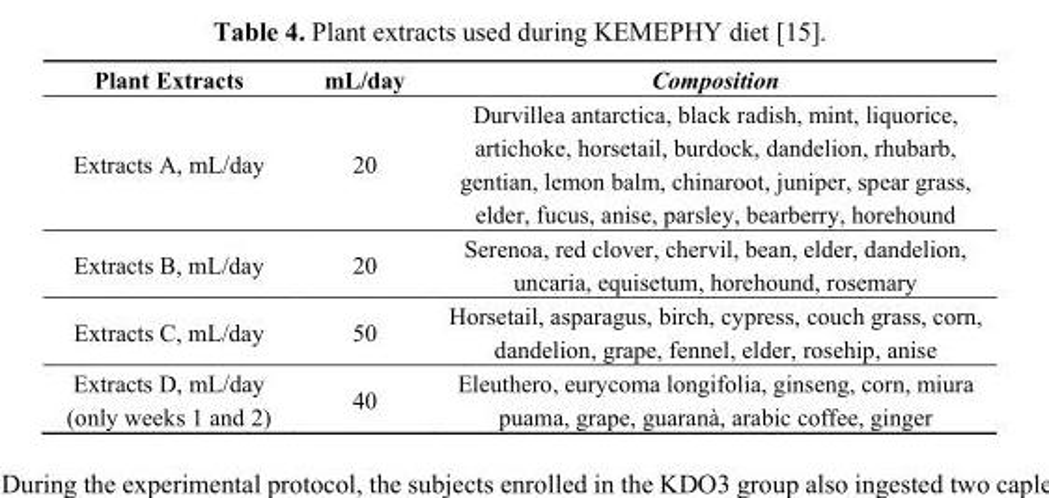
<table><thead><tr><td>Plant Extracts</td><td>mL/day</td><td>Composition</td></tr></thead><tbody><tr><td>Extracts A, mL/day</td><td>20</td><td>Durvillea antarctica, black radish, mint, liquorice, artichoke, horsetail, burdock, dandelion, rhubarb, gentian, lemon balm, chinaroot, juniper, spear grass, elder, fucus, anise, parsley, bearberry, horehound</td></tr><tr><td>Extracts B, mL/day</td><td>20</td><td>Serenoa, red clover, chervil, bean, elder, dandelion, uncaria, equisetum, horehound, rosemary</td></tr><tr><td>Extracts C, mL/day</td><td>50</td><td>Horsetail, asparagus, birch, cypress, couch grass, corn, dandelion, grape, fennel, elder, rosehip, anise</td></tr><tr><td>Extracts D, mL/day (only weeks 1 and 2)</td><td>40</td><td>Eleuthero, eurycoma longifolia, ginseng, corn, miura puama, grape, guaranà, arabic coffee, ginger</td></tr></tbody></table>